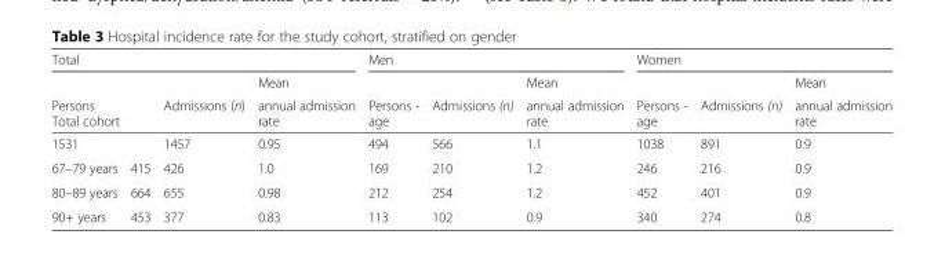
<table><thead><tr><td colspan="4">Total</td><td colspan="3">Men</td><td colspan="3">Women</td></tr><tr><td></td><td></td><td rowspan="2">Admissions (n)</td><td rowspan="2">Mean annual admission rate</td><td rowspan="2">Persons - age</td><td rowspan="2">Admissions (n)</td><td rowspan="2">Mean annual admission rate</td><td rowspan="2">Persons - age</td><td rowspan="2">Admissions (n)</td><td rowspan="2">Mean annual admission rate</td></tr><tr><td colspan="2">Persons Total cohort</td></tr></thead><tbody><tr><td>1531</td><td></td><td>1457</td><td>0.95</td><td>494</td><td>566</td><td>1.1</td><td>1038</td><td>891</td><td>0.9</td></tr><tr><td>67–79 years</td><td>415</td><td>426</td><td>1.0</td><td>169</td><td>210</td><td>1.2</td><td>246</td><td>216</td><td>0.9</td></tr><tr><td>80–89 years</td><td>664</td><td>655</td><td>0.98</td><td>212</td><td>254</td><td>1.2</td><td>452</td><td>401</td><td>0.9</td></tr><tr><td>90+ years</td><td>453</td><td>377</td><td>0.83</td><td>113</td><td>102</td><td>0.9</td><td>340</td><td>274</td><td>0.8</td></tr></tbody></table>